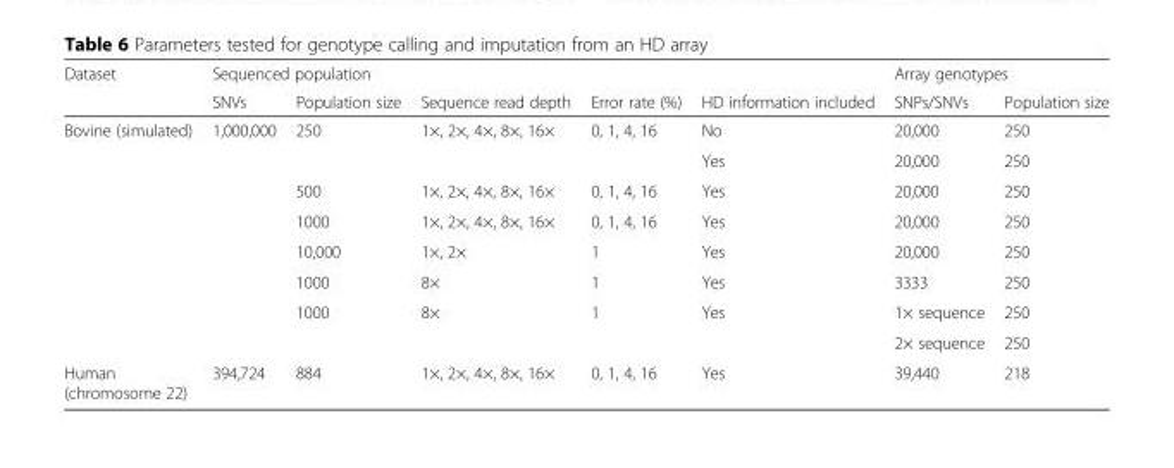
<table><thead><tr><td rowspan="2">Dataset</td><td colspan="5">Sequenced population</td><td colspan="2">Array genotypes</td></tr><tr><td>SNVs</td><td>Population size</td><td>Sequence read depth</td><td>Error rate (%)</td><td>HD information included</td><td>SNPs/SNVs</td><td>Population size</td></tr></thead><tbody><tr><td rowspan="8">Bovine (simulated)</td><td rowspan="8">1,000,000</td><td rowspan="2">250</td><td rowspan="2">1×, 2×, 4×, 8×, 16×</td><td rowspan="2">0, 1, 4, 16</td><td>No</td><td>20,000</td><td>250</td></tr><tr><td>Yes</td><td>20,000</td><td>250</td></tr><tr><td>500</td><td>1×, 2×, 4×, 8×, 16×</td><td>0, 1, 4, 16</td><td>Yes</td><td>20,000</td><td>250</td></tr><tr><td>1000</td><td>1×, 2×, 4×, 8×, 16×</td><td>0, 1, 4, 16</td><td>Yes</td><td>20,000</td><td>250</td></tr><tr><td>10,000</td><td>1×, 2×</td><td>1</td><td>Yes</td><td>20,000</td><td>250</td></tr><tr><td>1000</td><td>8×</td><td>1</td><td>Yes</td><td>3333</td><td>250</td></tr><tr><td rowspan="2">1000</td><td rowspan="2">8×</td><td rowspan="2">1</td><td rowspan="2">Yes</td><td>1× sequence</td><td>250</td></tr><tr><td>2× sequence</td><td>250</td></tr><tr><td>Human (chromosome 22)</td><td>394,724</td><td>884</td><td>1×, 2×, 4×, 8×, 16×</td><td>0, 1, 4, 16</td><td>Yes</td><td>39,440</td><td>218</td></tr></tbody></table>